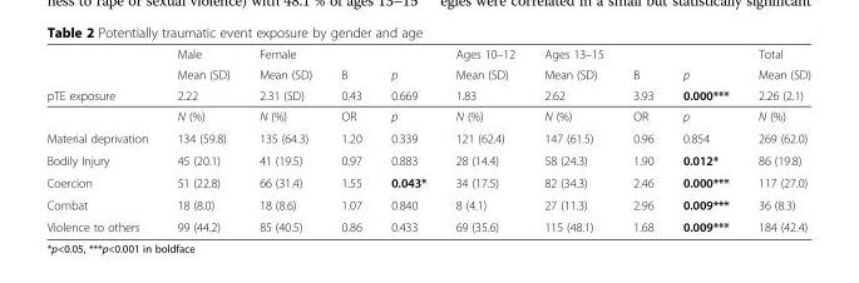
<table><thead><tr><td rowspan="3">pTE exposure</td><td rowspan="3">Male Mean (SD) 2.22</td><td rowspan="3">Female Mean (SD) 2.31 (SD)</td><td rowspan="3">B 0.43</td><td rowspan="3">p 0.669</td><td rowspan="3">Ages 10–12 Mean (SD) 1.83</td><td rowspan="3">Ages 13–15 Mean (SD) 2.62</td><td rowspan="3">B 3.93</td><td rowspan="3">p 0.000***</td><td rowspan="3">Total Mean (SD) 2.26 (2.1)</td></tr><tr></tr><tr></tr></thead><tbody><tr><td></td><td>N (%)</td><td>N (%)</td><td>OR</td><td>p</td><td>N (%)</td><td>N (%)</td><td>OR</td><td>p</td><td>N (%)</td></tr><tr><td>Material deprivation</td><td>134 (59.8)</td><td>135 (64.3)</td><td>1.20</td><td>0.339</td><td>121 (62.4)</td><td>147 (61.5)</td><td>0.96</td><td>0.854</td><td>269 (62.0)</td></tr><tr><td>Bodily Injury</td><td>45 (20.1)</td><td>41 (19.5)</td><td>0.97</td><td>0.883</td><td>28 (14.4)</td><td>58 (24.3)</td><td>1.90</td><td>0.012*</td><td>86 (19.8)</td></tr><tr><td>Coercion</td><td>51 (22.8)</td><td>66 (31.4)</td><td>1.55</td><td>0.043*</td><td>34 (17.5)</td><td>82 (34.3)</td><td>2.46</td><td>0.000***</td><td>117 (27.0)</td></tr><tr><td>Combat</td><td>18 (8.0)</td><td>18 (8.6)</td><td>1.07</td><td>0.840</td><td>8 (4.1)</td><td>27 (11.3)</td><td>2.96</td><td>0.009***</td><td>36 (8.3)</td></tr><tr><td>Violence to others</td><td>99 (44.2)</td><td>85 (40.5)</td><td>0.86</td><td>0.433</td><td>69 (35.6)</td><td>115 (48.1)</td><td>1.68</td><td>0.009***</td><td>184 (42.4)</td></tr></tbody></table>